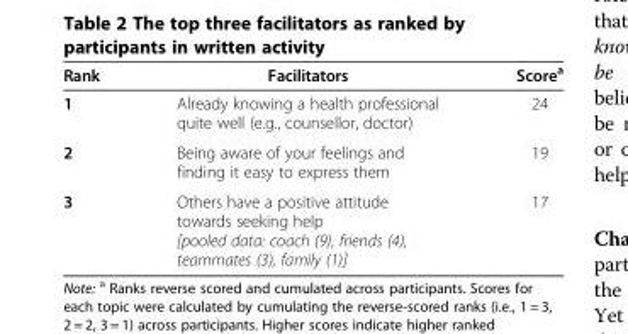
<table><thead><tr><td>Rank</td><td>Facilitators</td><td>Score<sup>a</sup></td></tr></thead><tbody><tr><td>1</td><td>Already knowing a health professional quite well (e.g., counsellor, doctor)</td><td>24</td></tr><tr><td>2</td><td>Being aware of your feelings and finding it easy to express them</td><td>19</td></tr><tr><td>3</td><td>Others have a positive attitude towards seeking help [pooled data: coach (9), friends (4), teammates (3), family (1)]</td><td>17</td></tr></tbody></table>